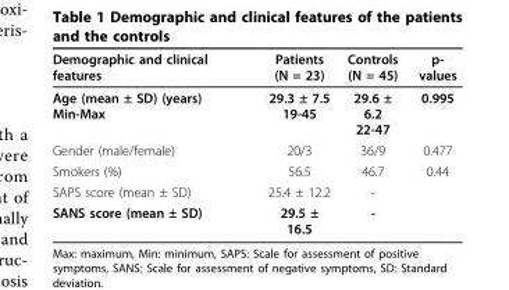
<table><thead><tr><td>Demographic and clinical features</td><td>Patients (N = 23)</td><td>Controls (N = 45)</td><td>p- values</td></tr></thead><tbody><tr><td>Age (mean ± SD) (years) Min-Max</td><td>29.3 ± 7.5 19-45</td><td>29.6 ± 6.2 22-47</td><td>0.995</td></tr><tr><td>Gender (male/female)</td><td>20/3</td><td>36/9</td><td>0.477</td></tr><tr><td>Smokers (%)</td><td>56.5</td><td>46.7</td><td>0.44</td></tr><tr><td>SAPS score (mean ± SD)</td><td>25.4 ± 12.2</td><td>-</td><td></td></tr><tr><td>SANS score (mean ± SD)</td><td>29.5 ± 16.5</td><td>-</td><td></td></tr></tbody></table>